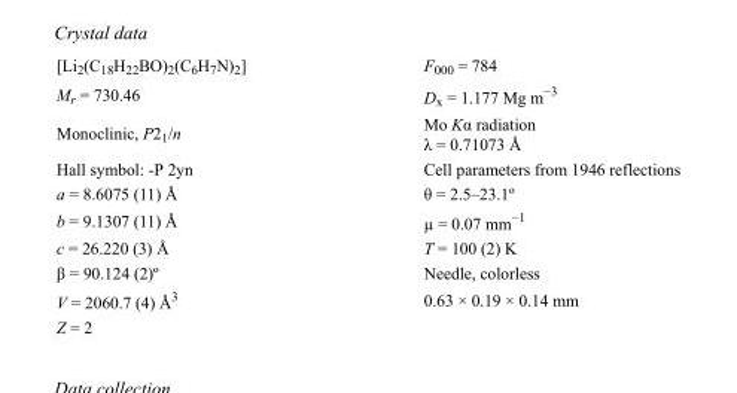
<table><tbody><tr><td>[Li<sub>2</sub>(C<sub>18</sub>H<sub>22</sub>BO)<sub>2</sub>(C<sub>6</sub>H<sub>7</sub>N)<sub>2</sub>]</td><td>F000 = 784</td></tr><tr><td>M<sub>r</sub> = 730.46</td><td>D<sub>x</sub> = 1.177 Mg m<sup>−3</sup></td></tr><tr><td>Monoclinic, P2<sub>1</sub>/n</td><td>Mo Kα radiation λ = 0.71073 Å</td></tr><tr><td>Hall symbol: -P 2yn</td><td>Cell parameters from 1946 reflections</td></tr><tr><td>a = 8.6075 (11) Å</td><td>θ = 2.5–23.1º</td></tr><tr><td>b = 9.1307 (11) Å</td><td>µ = 0.07 mm<sup>−1</sup></td></tr><tr><td>c = 26.220 (3) Å</td><td>T = 100 (2) K</td></tr><tr><td>β = 90.124 (2)º</td><td>Needle, colorless</td></tr><tr><td>V = 2060.7 (4) Å<sup>3</sup></td><td>0.63 × 0.19 × 0.14 mm</td></tr><tr><td>Z = 2</td><td></td></tr></tbody></table>